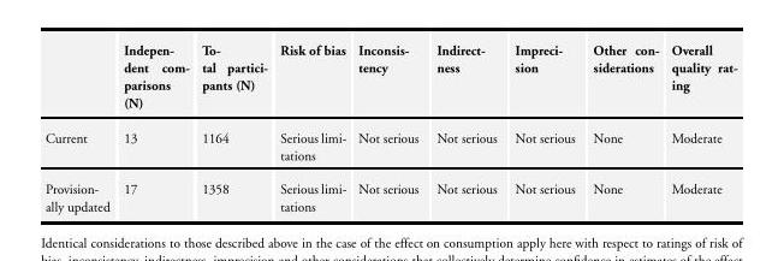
<table><thead><tr><td></td><td>Indepen- dent com- parisons (N)</td><td>To- tal partici- pants (N)</td><td>Risk of bias</td><td>Inconsis- tency</td><td>Indirect- ness</td><td>Impreci- sion</td><td>Other con- siderations</td><td>Overall quality rat- ing</td></tr></thead><tbody><tr><td>Current</td><td>13</td><td>1164</td><td>Serious limi- tations</td><td>Not serious</td><td>Not serious</td><td>Not serious</td><td>None</td><td>Moderate</td></tr><tr><td>Provision- ally updated</td><td>17</td><td>1358</td><td>Serious limi- tations</td><td>Not serious</td><td>Not serious</td><td>Not serious</td><td>None</td><td>Moderate</td></tr></tbody></table>